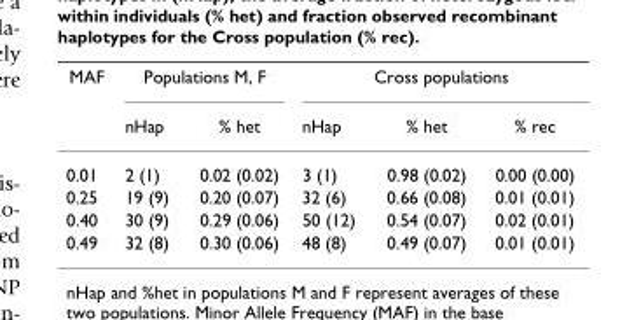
<table><thead><tr><td rowspan="2">MAF</td><td colspan="2">Populations M, F</td><td colspan="3">Cross populations</td></tr><tr><td>nHap</td><td>% het</td><td>nHap</td><td>% het</td><td>% rec</td></tr></thead><tbody><tr><td>0.01</td><td>2 (1)</td><td>0.02 (0.02)</td><td>3 (1)</td><td>0.98 (0.02)</td><td>0.00 (0.00)</td></tr><tr><td>0.25</td><td>19 (9)</td><td>0.20 (0.07)</td><td>32 (6)</td><td>0.66 (0.08)</td><td>0.01 (0.01)</td></tr><tr><td>0.40</td><td>30 (9)</td><td>0.29 (0.06)</td><td>50 (12)</td><td>0.54 (0.07)</td><td>0.02 (0.01)</td></tr><tr><td>0.49</td><td>32 (8)</td><td>0.30 (0.06)</td><td>48 (8)</td><td>0.49 (0.07)</td><td>0.01 (0.01)</td></tr></tbody></table>